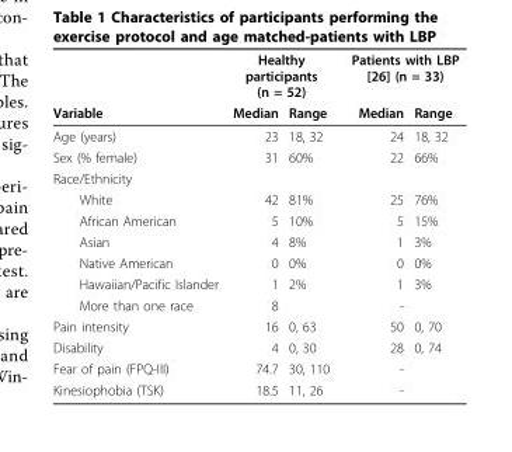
<table><thead><tr><td rowspan="2">Variable</td><td colspan="2">Healthy participants (n = 52)</td><td colspan="2">Patients with LBP [26] (n = 33)</td></tr><tr><td>Median</td><td>Range</td><td>Median</td><td>Range</td></tr></thead><tbody><tr><td>Age (years)</td><td>23</td><td>18, 32</td><td>24</td><td>18, 32</td></tr><tr><td>Sex (% female)</td><td>31</td><td>60%</td><td>22</td><td>66%</td></tr><tr><td colspan="5">Race/Ethnicity</td></tr><tr><td>White</td><td>42</td><td>81%</td><td>25</td><td>76%</td></tr><tr><td>African American</td><td>5</td><td>10%</td><td>5</td><td>15%</td></tr><tr><td>Asian</td><td>4</td><td>8%</td><td>1</td><td>3%</td></tr><tr><td>Native American</td><td>0</td><td>0%</td><td>0</td><td>0%</td></tr><tr><td>Hawaiian/Pacific Islander</td><td>1</td><td>2%</td><td>1</td><td>3%</td></tr><tr><td>More than one race</td><td>8</td><td></td><td>-</td><td></td></tr><tr><td>Pain intensity</td><td>16</td><td>0, 63</td><td>50</td><td>0, 70</td></tr><tr><td>Disability</td><td>4</td><td>0, 30</td><td>28</td><td>0, 74</td></tr><tr><td>Fear of pain (FPQ-III)</td><td>74.7</td><td>30, 110</td><td>-</td><td></td></tr><tr><td>Kinesiophobia (TSK)</td><td>18.5</td><td>11, 26</td><td>-</td><td></td></tr></tbody></table>